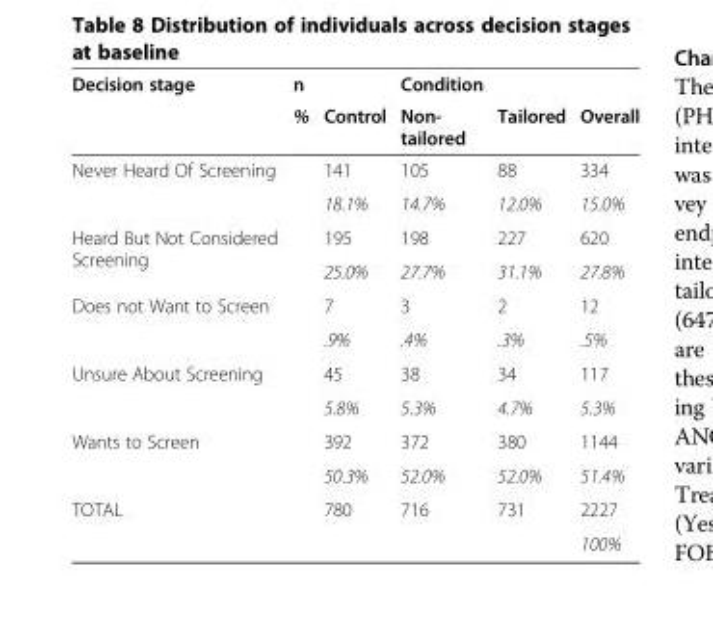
<table><thead><tr><td rowspan="2">Decision stage</td><td rowspan="2">n %</td><td rowspan="2">Control</td><td rowspan="2">Condition Non- tailored</td><td rowspan="2">Tailored</td><td rowspan="2">Overall</td></tr><tr></tr></thead><tbody><tr><td rowspan="2">Never Heard Of Screening</td><td></td><td>141</td><td>105</td><td>88</td><td>334</td></tr><tr><td></td><td>18.1%</td><td>14.7%</td><td>12.0%</td><td>15.0%</td></tr><tr><td rowspan="2">Heard But Not Considered Screening</td><td></td><td>195</td><td>198</td><td>227</td><td>620</td></tr><tr><td></td><td>25.0%</td><td>27.7%</td><td>31.1%</td><td>27.8%</td></tr><tr><td rowspan="2">Does not Want to Screen</td><td></td><td>7</td><td>3</td><td>2</td><td>12</td></tr><tr><td></td><td>.9%</td><td>.4%</td><td>.3%</td><td>.5%</td></tr><tr><td rowspan="2">Unsure About Screening</td><td></td><td>45</td><td>38</td><td>34</td><td>117</td></tr><tr><td></td><td>5.8%</td><td>5.3%</td><td>4.7%</td><td>5.3%</td></tr><tr><td rowspan="2">Wants to Screen</td><td></td><td>392</td><td>372</td><td>380</td><td>1144</td></tr><tr><td></td><td>50.3%</td><td>52.0%</td><td>52.0%</td><td>51.4%</td></tr><tr><td rowspan="2">TOTAL</td><td></td><td>780</td><td>716</td><td>731</td><td>2227</td></tr><tr><td></td><td></td><td></td><td></td><td>100%</td></tr></tbody></table>